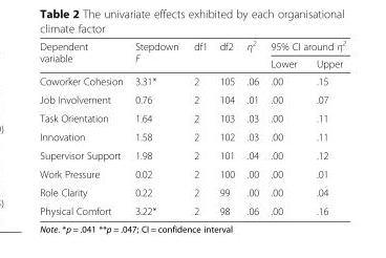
<table><thead><tr><td rowspan="2">Dependent variable</td><td rowspan="2">Stepdown F</td><td rowspan="2">df1</td><td rowspan="2">df2</td><td rowspan="2">η<sup>2</sup></td><td colspan="2">95% CI around η<sup>2</sup></td></tr><tr><td>Lower</td><td>Upper</td></tr></thead><tbody><tr><td>Coworker Cohesion</td><td>3.31*</td><td>2</td><td>105</td><td>.06</td><td>.00</td><td>.15</td></tr><tr><td>Job Involvement</td><td>0.76</td><td>2</td><td>104</td><td>.01</td><td>.00</td><td>.07</td></tr><tr><td>Task Orientation</td><td>1.64</td><td>2</td><td>103</td><td>.03</td><td>.00</td><td>.11</td></tr><tr><td>Innovation</td><td>1.58</td><td>2</td><td>102</td><td>.03</td><td>.00</td><td>.11</td></tr><tr><td>Supervisor Support</td><td>1.98</td><td>2</td><td>101</td><td>.04</td><td>.00</td><td>.12</td></tr><tr><td>Work Pressure</td><td>0.02</td><td>2</td><td>100</td><td>.00</td><td>.00</td><td>.01</td></tr><tr><td>Role Clarity</td><td>0.22</td><td>2</td><td>99</td><td>.00</td><td>.00</td><td>.04</td></tr><tr><td>Physical Comfort</td><td>3.22*</td><td>2</td><td>98</td><td>.06</td><td>.00</td><td>.16</td></tr></tbody></table>